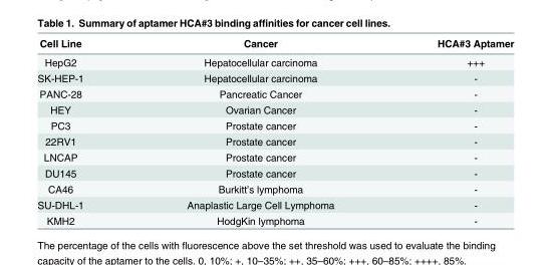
<table><thead><tr><td>Cell Line</td><td>Cancer</td><td>HCA#3 Aptamer</td></tr></thead><tbody><tr><td>HepG2</td><td>Hepatocellular carcinoma</td><td>+++</td></tr><tr><td>SK-HEP-1</td><td>Hepatocellular carcinoma</td><td>-</td></tr><tr><td>PANC-28</td><td>Pancreatic Cancer</td><td>-</td></tr><tr><td>HEY</td><td>Ovarian Cancer</td><td>-</td></tr><tr><td>PC3</td><td>Prostate cancer</td><td>-</td></tr><tr><td>22RV1</td><td>Prostate cancer</td><td>-</td></tr><tr><td>LNCAP</td><td>Prostate cancer</td><td>-</td></tr><tr><td>DU145</td><td>Prostate cancer</td><td>-</td></tr><tr><td>CA46</td><td>Burkitt’s lymphoma</td><td>-</td></tr><tr><td>SU-DHL-1</td><td>Anaplastic Large Cell Lymphoma</td><td>-</td></tr><tr><td>KMH2</td><td>HodgKin lymphoma</td><td>-</td></tr></tbody></table>